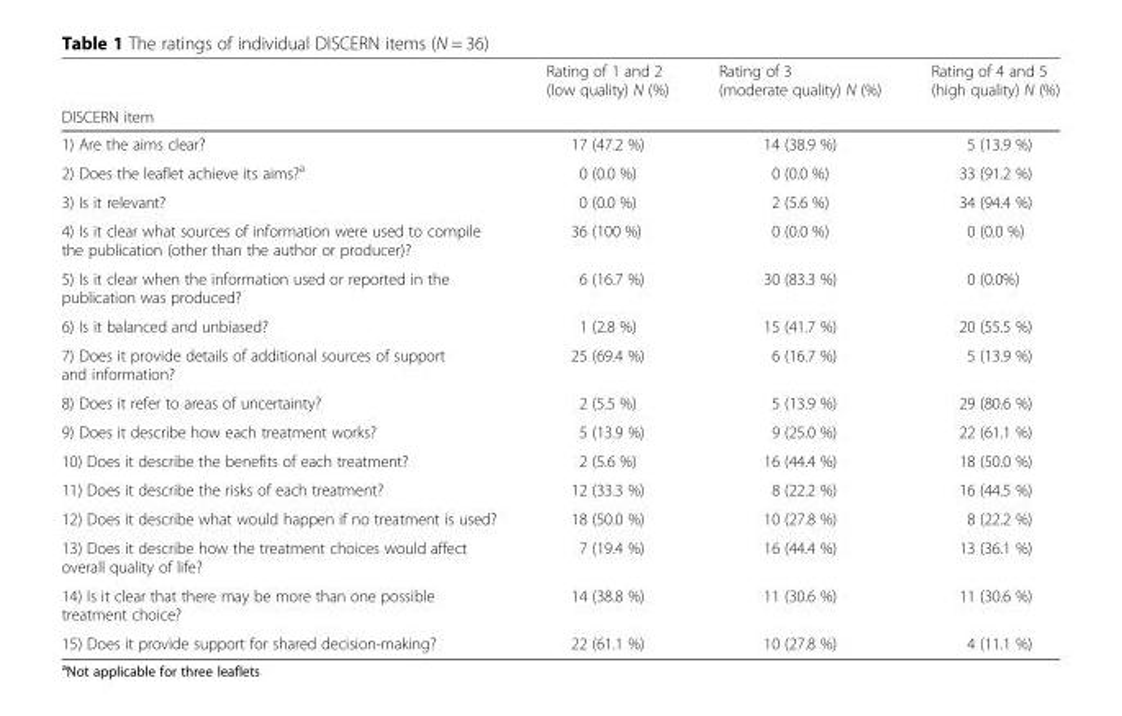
<table><thead><tr><td></td><td>Rating of 1 and 2 (low quality) N (%)</td><td>Rating of 3 (moderate quality) N (%)</td><td>Rating of 4 and 5 (high quality) N (%)</td></tr><tr><td colspan="4">DISCERN item</td></tr></thead><tbody><tr><td>1) Are the aims clear?</td><td>17 (47.2 %)</td><td>14 (38.9 %)</td><td>5 (13.9 %)</td></tr><tr><td>2) Does the leaflet achieve its aims?<sup>a</sup></td><td>0 (0.0 %)</td><td>0 (0.0 %)</td><td>33 (91.2 %)</td></tr><tr><td>3) Is it relevant?</td><td>0 (0.0 %)</td><td>2 (5.6 %)</td><td>34 (94.4 %)</td></tr><tr><td>4) Is it clear what sources of information were used to compile the publication (other than the author or producer)?</td><td>36 (100 %)</td><td>0 (0.0 %)</td><td>0 (0.0 %)</td></tr><tr><td>5) Is it clear when the information used or reported in the publication was produced?</td><td>6 (16.7 %)</td><td>30 (83.3 %)</td><td>0 (0.0%)</td></tr><tr><td>6) Is it balanced and unbiased?</td><td>1 (2.8 %)</td><td>15 (41.7 %)</td><td>20 (55.5 %)</td></tr><tr><td>7) Does it provide details of additional sources of support and information?</td><td>25 (69.4 %)</td><td>6 (16.7 %)</td><td>5 (13.9 %)</td></tr><tr><td>8) Does it refer to areas of uncertainty?</td><td>2 (5.5 %)</td><td>5 (13.9 %)</td><td>29 (80.6 %)</td></tr><tr><td>9) Does it describe how each treatment works?</td><td>5 (13.9 %)</td><td>9 (25.0 %)</td><td>22 (61.1 %)</td></tr><tr><td>10) Does it describe the benefits of each treatment?</td><td>2 (5.6 %)</td><td>16 (44.4 %)</td><td>18 (50.0 %)</td></tr><tr><td>11) Does it describe the risks of each treatment?</td><td>12 (33.3 %)</td><td>8 (22.2 %)</td><td>16 (44.5 %)</td></tr><tr><td>12) Does it describe what would happen if no treatment is used?</td><td>18 (50.0 %)</td><td>10 (27.8 %)</td><td>8 (22.2 %)</td></tr><tr><td>13) Does it describe how the treatment choices would affect overall quality of life?</td><td>7 (19.4 %)</td><td>16 (44.4 %)</td><td>13 (36.1 %)</td></tr><tr><td>14) Is it clear that there may be more than one possible treatment choice?</td><td>14 (38.8 %)</td><td>11 (30.6 %)</td><td>11 (30.6 %)</td></tr><tr><td>15) Does it provide support for shared decision-making?</td><td>22 (61.1 %)</td><td>10 (27.8 %)</td><td>4 (11.1 %)</td></tr></tbody></table>